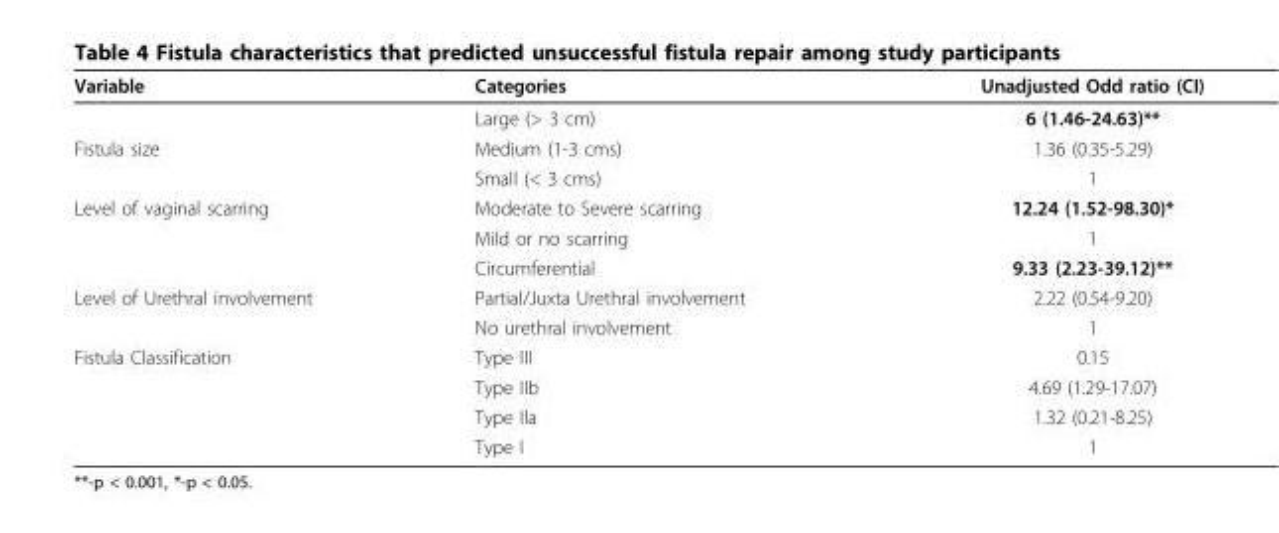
<table><thead><tr><td>Variable</td><td>Categories</td><td>Unadjusted Odd ratio (CI)</td></tr></thead><tbody><tr><td></td><td>Large (&gt; 3 cm)</td><td>6 (1.46-24.63)**</td></tr><tr><td rowspan="2">Fistula size</td><td>Medium (1-3 cms)</td><td>1.36 (0.35-5.29)</td></tr><tr><td>Small (&lt; 3 cms)</td><td>1</td></tr><tr><td rowspan="3">Level of vaginal scarring</td><td>Moderate to Severe scarring</td><td>12.24 (1.52-98.30)*</td></tr><tr><td>Mild or no scarring</td><td>1</td></tr><tr><td>Circumferential</td><td>9.33 (2.23-39.12)**</td></tr><tr><td rowspan="2">Level of Urethral involvement</td><td>Partial/Juxta Urethral involvement</td><td>2.22 (0.54-9.20)</td></tr><tr><td>No urethral involvement</td><td>1</td></tr><tr><td rowspan="4">Fistula Classification</td><td>Type III</td><td>0.15</td></tr><tr><td>Type IIb</td><td>4.69 (1.29-17.07)</td></tr><tr><td>Type IIa</td><td>1.32 (0.21-8.25)</td></tr><tr><td>Type I</td><td>1</td></tr></tbody></table>